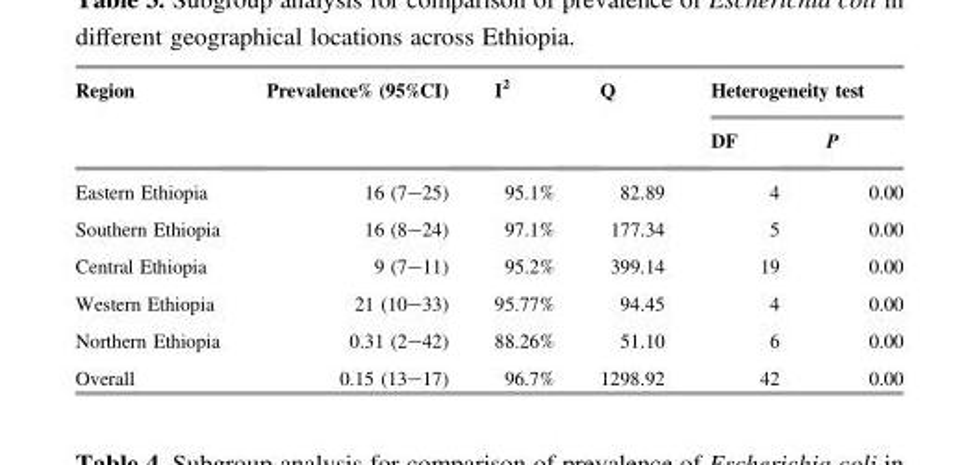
<table><thead><tr><td rowspan="2">Region</td><td rowspan="2">Prevalence% (95%CI)</td><td rowspan="2">I<sup>2</sup></td><td rowspan="2">Q</td><td colspan="2">Heterogeneity test</td></tr><tr><td>DF</td><td>P</td></tr></thead><tbody><tr><td>Eastern Ethiopia</td><td>16 (7–25)</td><td>95.1%</td><td>82.89</td><td>4</td><td>0.00</td></tr><tr><td>Southern Ethiopia</td><td>16 (8–24)</td><td>97.1%</td><td>177.34</td><td>5</td><td>0.00</td></tr><tr><td>Central Ethiopia</td><td>9 (7–11)</td><td>95.2%</td><td>399.14</td><td>19</td><td>0.00</td></tr><tr><td>Western Ethiopia</td><td>21 (10–33)</td><td>95.77%</td><td>94.45</td><td>4</td><td>0.00</td></tr><tr><td>Northern Ethiopia</td><td>0.31 (2–42)</td><td>88.26%</td><td>51.10</td><td>6</td><td>0.00</td></tr><tr><td>Overall</td><td>0.15 (13–17)</td><td>96.7%</td><td>1298.92</td><td>42</td><td>0.00</td></tr></tbody></table>